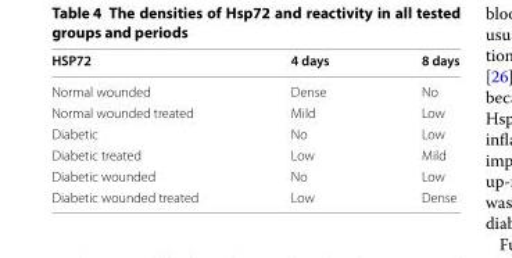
<table><thead><tr><td>HSP72</td><td>4 days</td><td>8 days</td></tr></thead><tbody><tr><td>Normal wounded</td><td>Dense</td><td>No</td></tr><tr><td>Normal wounded treated</td><td>Mild</td><td>Low</td></tr><tr><td>Diabetic</td><td>No</td><td>Low</td></tr><tr><td>Diabetic treated</td><td>Low</td><td>Mild</td></tr><tr><td>Diabetic wounded</td><td>No</td><td>Low</td></tr><tr><td>Diabetic wounded treated</td><td>Low</td><td>Dense</td></tr></tbody></table>